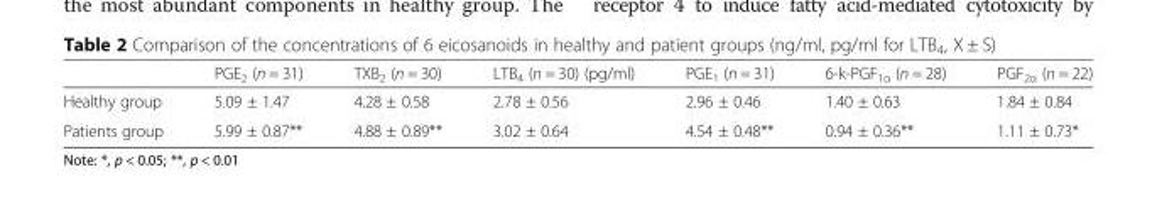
<table><thead><tr><td></td><td>PGE<sub>2</sub> (n = 31)</td><td>TXB<sub>2</sub> (n = 30)</td><td>LTB<sub>4</sub> (n = 30) (pg/ml)</td><td>PGE<sub>1</sub> (n = 31)</td><td>6-k-PGF<sub>1α</sub> (n = 28)</td><td>PGF<sub>2α</sub> (n = 22)</td></tr></thead><tbody><tr><td>Healthy group</td><td>5.09 ± 1.47</td><td>4.28 ± 0.58</td><td>2.78 ± 0.56</td><td>2.96 ± 0.46</td><td>1.40 ± 0.63</td><td>1.84 ± 0.84</td></tr><tr><td>Patients group</td><td>5.99 ± 0.87**</td><td>4.88 ± 0.89**</td><td>3.02 ± 0.64</td><td>4.54 ± 0.48**</td><td>0.94 ± 0.36**</td><td>1.11 ± 0.73*</td></tr></tbody></table>